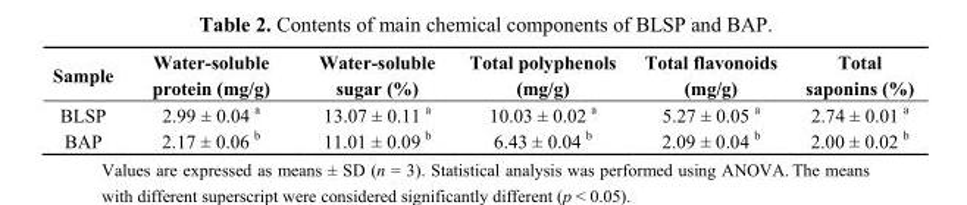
<table><thead><tr><td>Sample</td><td>Water-soluble protein (mg/g)</td><td>Water-soluble sugar (%)</td><td>Total polyphenols (mg/g)</td><td>Total flavonoids (mg/g)</td><td>Total saponins (%)</td></tr></thead><tbody><tr><td>BLSP</td><td>2.99 ± 0.04 <sup>a</sup></td><td>13.07 ± 0.11 <sup>a</sup></td><td>10.03 ± 0.02 <sup>a</sup></td><td>5.27 ± 0.05 <sup>a</sup></td><td>2.74 ± 0.01 <sup>a</sup></td></tr><tr><td>BAP</td><td>2.17 ± 0.06 <sup>b</sup></td><td>11.01 ± 0.09 <sup>b</sup></td><td>6.43 ± 0.04 <sup>b</sup></td><td>2.09 ± 0.04 <sup>b</sup></td><td>2.00 ± 0.02 <sup>b</sup></td></tr></tbody></table>